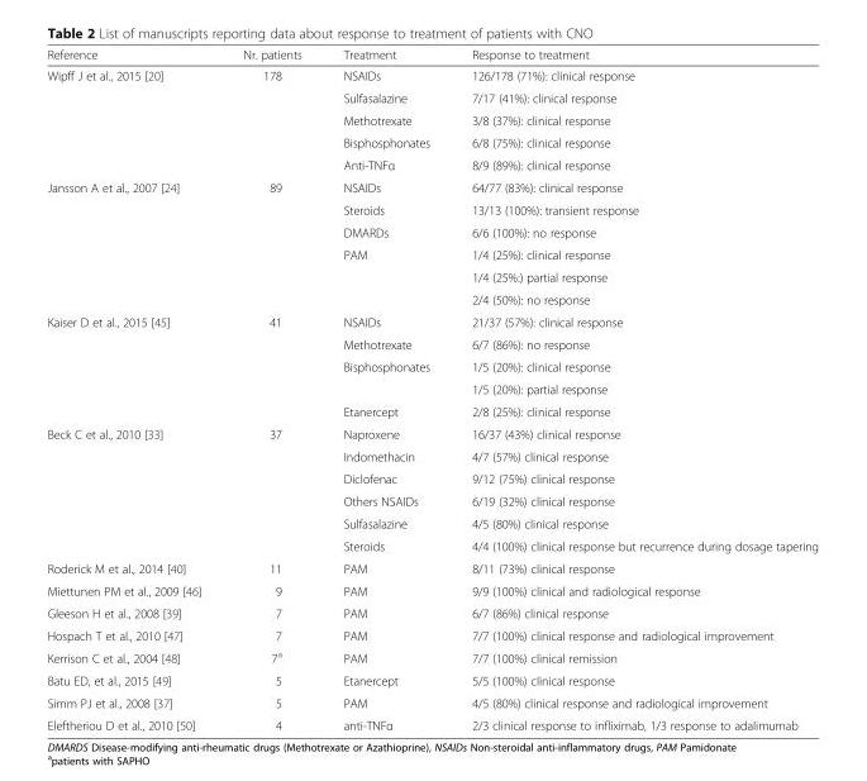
<table><thead><tr><td>Reference</td><td>Nr. patients</td><td>Treatment</td><td>Response to treatment</td></tr></thead><tbody><tr><td rowspan="5">Wipff J et al., 2015 [20]</td><td rowspan="5">178</td><td>NSAIDs</td><td>126/178 (71%): clinical response</td></tr><tr><td>Sulfasalazine</td><td>7/17 (41%): clinical response</td></tr><tr><td>Methotrexate</td><td>3/8 (37%): clinical response</td></tr><tr><td>Bisphosphonates</td><td>6/8 (75%): clinical response</td></tr><tr><td>Anti-TNFα</td><td>8/9 (89%): clinical response</td></tr><tr><td rowspan="6">Jansson A et al., 2007 [24]</td><td rowspan="6">89</td><td>NSAIDs</td><td>64/77 (83%): clinical response</td></tr><tr><td>Steroids</td><td>13/13 (100%): transient response</td></tr><tr><td>DMARDs</td><td>6/6 (100%): no response</td></tr><tr><td rowspan="3">PAM</td><td>1/4 (25%): clinical response</td></tr><tr><td>1/4 (25%:) partial response</td></tr><tr><td>2/4 (50%): no response</td></tr><tr><td rowspan="5">Kaiser D et al., 2015 [45]</td><td rowspan="5">41</td><td>NSAIDs</td><td>21/37 (57%): clinical response</td></tr><tr><td>Methotrexate</td><td>6/7 (86%): no response</td></tr><tr><td rowspan="2">Bisphosphonates</td><td>1/5 (20%): clinical response</td></tr><tr><td>1/5 (20%): partial response</td></tr><tr><td>Etanercept</td><td>2/8 (25%): clinical response</td></tr><tr><td rowspan="6">Beck C et al., 2010 [33]</td><td rowspan="6">37</td><td>Naproxene</td><td>16/37 (43%) clinical response</td></tr><tr><td>Indomethacin</td><td>4/7 (57%) clinical response</td></tr><tr><td>Diclofenac</td><td>9/12 (75%) clinical response</td></tr><tr><td>Others NSAIDs</td><td>6/19 (32%) clinical response</td></tr><tr><td>Sulfasalazine</td><td>4/5 (80%) clinical response</td></tr><tr><td>Steroids</td><td>4/4 (100%) clinical response but recurrence during dosage tapering</td></tr><tr><td>Roderick M et al., 2014 [40]</td><td>11</td><td>PAM</td><td>8/11 (73%) clinical response</td></tr><tr><td>Miettunen PM et al., 2009 [46]</td><td>9</td><td>PAM</td><td>9/9 (100%) clinical and radiological response</td></tr><tr><td>Gleeson H et al., 2008 [39]</td><td>7</td><td>PAM</td><td>6/7 (86%) clinical response</td></tr><tr><td>Hospach T et al., 2010 [47]</td><td>7</td><td>PAM</td><td>7/7 (100%) clinical response and radiological improvement</td></tr><tr><td>Kerrison C et al., 2004 [48]</td><td>7<sup>a</sup></td><td>PAM</td><td>7/7 (100%) clinical remission</td></tr><tr><td>Batu ED, et al., 2015 [49]</td><td>5</td><td>Etanercept</td><td>5/5 (100%) clinical response</td></tr><tr><td>Simm PJ et al., 2008 [37]</td><td>5</td><td>PAM</td><td>4/5 (80%) clinical response and radiological improvement</td></tr><tr><td>Eleftheriou D et al., 2010 [50]</td><td>4</td><td>anti-TNFα</td><td>2/3 clinical response to infliximab, 1/3 response to adalimumab</td></tr></tbody></table>